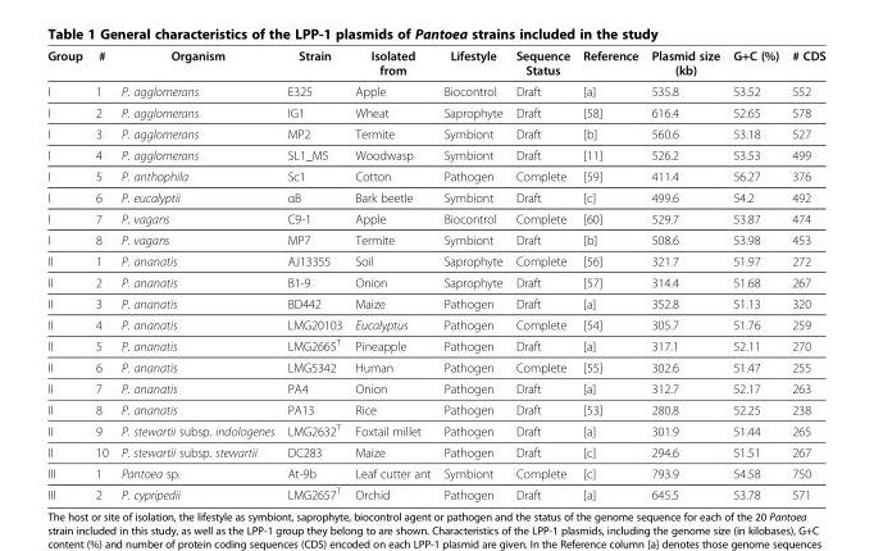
<table><thead><tr><td>Group</td><td>#</td><td>Organism</td><td>Strain</td><td>Isolated from</td><td>Lifestyle</td><td>Sequence Status</td><td>Reference</td><td>Plasmid size (kb)</td><td>G+C (%)</td><td># CDS</td></tr></thead><tbody><tr><td>I</td><td>1</td><td>P. agglomerans</td><td>E325</td><td>Apple</td><td>Biocontrol</td><td>Draft</td><td>[a]</td><td>535.8</td><td>53.52</td><td>552</td></tr><tr><td>I</td><td>2</td><td>P. agglomerans</td><td>IG1</td><td>Wheat</td><td>Saprophyte</td><td>Draft</td><td>[58]</td><td>616.4</td><td>52.65</td><td>578</td></tr><tr><td>I</td><td>3</td><td>P. agglomerans</td><td>MP2</td><td>Termite</td><td>Symbiont</td><td>Draft</td><td>[b]</td><td>560.6</td><td>53.18</td><td>527</td></tr><tr><td>I</td><td>4</td><td>P. agglomerans</td><td>SL1_M5</td><td>Woodwasp</td><td>Symbiont</td><td>Draft</td><td>[11]</td><td>526.2</td><td>53.53</td><td>499</td></tr><tr><td>I</td><td>5</td><td>P. anthophila</td><td>Sc1</td><td>Cotton</td><td>Pathogen</td><td>Complete</td><td>[59]</td><td>411.4</td><td>56.27</td><td>376</td></tr><tr><td>I</td><td>6</td><td>P. eucalyptii</td><td>αB</td><td>Bark beetle</td><td>Symbiont</td><td>Draft</td><td>[c]</td><td>499.6</td><td>54.2</td><td>492</td></tr><tr><td>I</td><td>7</td><td>P. vagans</td><td>C9-1</td><td>Apple</td><td>Biocontrol</td><td>Complete</td><td>[60]</td><td>529.7</td><td>53.87</td><td>474</td></tr><tr><td>I</td><td>8</td><td>P. vagans</td><td>MP7</td><td>Termite</td><td>Symbiont</td><td>Draft</td><td>[b]</td><td>508.6</td><td>53.98</td><td>453</td></tr><tr><td>II</td><td>1</td><td>P. ananatis</td><td>AJ13355</td><td>Soil</td><td>Saprophyte</td><td>Complete</td><td>[56]</td><td>321.7</td><td>51.97</td><td>272</td></tr><tr><td>II</td><td>2</td><td>P. ananatis</td><td>B1-9</td><td>Onion</td><td>Saprophyte</td><td>Draft</td><td>[57]</td><td>314.4</td><td>51.68</td><td>267</td></tr><tr><td>II</td><td>3</td><td>P. ananatis</td><td>BD442</td><td>Maize</td><td>Pathogen</td><td>Draft</td><td>[a]</td><td>352.8</td><td>51.13</td><td>320</td></tr><tr><td>II</td><td>4</td><td>P. ananatis</td><td>LMG20103</td><td>Eucalyptus</td><td>Pathogen</td><td>Complete</td><td>[54]</td><td>305.7</td><td>51.76</td><td>259</td></tr><tr><td>II</td><td>5</td><td>P. ananatis</td><td>LMG2665<sup>T</sup></td><td>Pineapple</td><td>Pathogen</td><td>Draft</td><td>[a]</td><td>317.1</td><td>52.11</td><td>270</td></tr><tr><td>II</td><td>6</td><td>P. ananatis</td><td>LMG5342</td><td>Human</td><td>Pathogen</td><td>Complete</td><td>[55]</td><td>302.6</td><td>51.47</td><td>255</td></tr><tr><td>II</td><td>7</td><td>P. ananatis</td><td>PA4</td><td>Onion</td><td>Pathogen</td><td>Draft</td><td>[a]</td><td>312.7</td><td>52.17</td><td>263</td></tr><tr><td>II</td><td>8</td><td>P. ananatis</td><td>PA13</td><td>Rice</td><td>Pathogen</td><td>Draft</td><td>[53]</td><td>280.8</td><td>52.25</td><td>238</td></tr><tr><td>II</td><td>9</td><td>P. stewartii subsp. indologenes</td><td>LMG2632<sup>T</sup></td><td>Foxtail millet</td><td>Pathogen</td><td>Draft</td><td>[a]</td><td>301.9</td><td>51.44</td><td>265</td></tr><tr><td>II</td><td>10</td><td>P. stewartii subsp. stewartii</td><td>DC283</td><td>Maize</td><td>Pathogen</td><td>Draft</td><td>[c]</td><td>294.6</td><td>51.51</td><td>267</td></tr><tr><td>III</td><td>1</td><td>Pantoea sp.</td><td>At-9b</td><td>Leaf cutter ant</td><td>Symbiont</td><td>Complete</td><td>[c]</td><td>793.9</td><td>54.58</td><td>750</td></tr><tr><td>III</td><td>2</td><td>P. cypripedii</td><td>LMG2657<sup>T</sup></td><td>Orchid</td><td>Pathogen</td><td>Draft</td><td>[a]</td><td>645.5</td><td>53.78</td><td>571</td></tr></tbody></table>